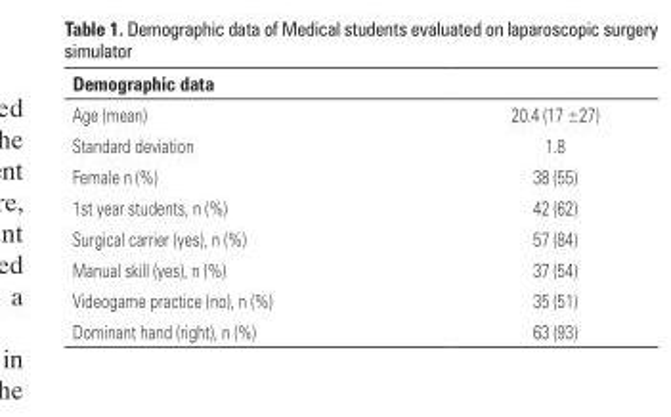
<table><thead><tr><td>Demographic data</td><td></td></tr></thead><tbody><tr><td>Age (mean)</td><td>20.4 (17 ±27)</td></tr><tr><td>Standard deviation</td><td>1.8</td></tr><tr><td>Female n (%)</td><td>38 (55)</td></tr><tr><td>1st year students, n (%)</td><td>42 (62)</td></tr><tr><td>Surgical carrier (yes), n (%)</td><td>57 (84)</td></tr><tr><td>Manual skill (yes), n (%)</td><td>37 (54)</td></tr><tr><td>Videogame practice (no), n (%)</td><td>35 (51)</td></tr><tr><td>Dominant hand (right), n (%)</td><td>63 (93)</td></tr></tbody></table>